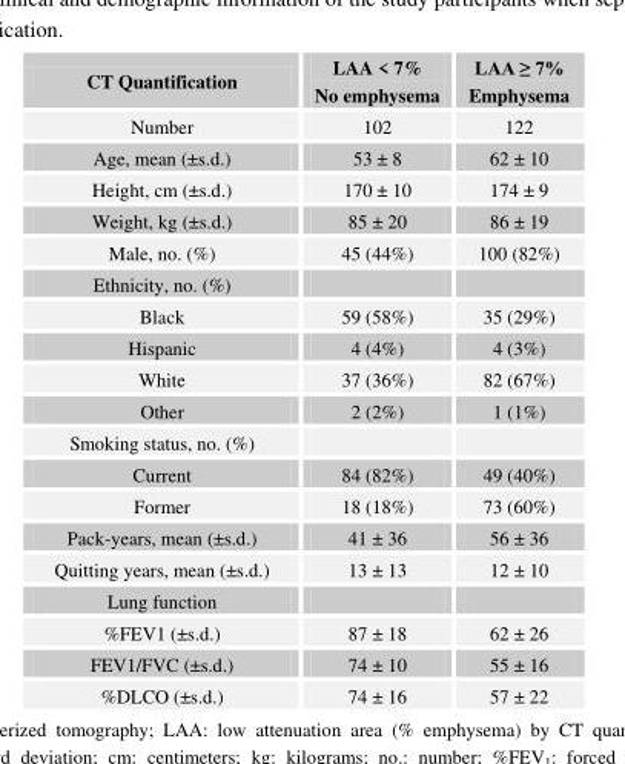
<table><thead><tr><td>CT Quantification</td><td>LAA &lt; 7% No emphysema</td><td>LAA ≥ 7% Emphysema</td></tr></thead><tbody><tr><td>Number</td><td>102</td><td>122</td></tr><tr><td>Age, mean (±s.d.)</td><td>53 ± 8</td><td>62 ± 10</td></tr><tr><td>Height, cm (±s.d.)</td><td>170 ± 10</td><td>174 ± 9</td></tr><tr><td>Weight, kg (±s.d.)</td><td>85 ± 20</td><td>86 ± 19</td></tr><tr><td>Male, no. (%)</td><td>45 (44%)</td><td>100 (82%)</td></tr><tr><td colspan="3">Ethnicity, no. (%)</td></tr><tr><td>Black</td><td>59 (58%)</td><td>35 (29%)</td></tr><tr><td>Hispanic</td><td>4 (4%)</td><td>4 (3%)</td></tr><tr><td>White</td><td>37 (36%)</td><td>82 (67%)</td></tr><tr><td>Other</td><td>2 (2%)</td><td>1 (1%)</td></tr><tr><td colspan="3">Smoking status, no. (%)</td></tr><tr><td>Current</td><td>84 (82%)</td><td>49 (40%)</td></tr><tr><td>Former</td><td>18 (18%)</td><td>73 (60%)</td></tr><tr><td>Pack-years, mean (±s.d.)</td><td>41 ± 36</td><td>56 ± 36</td></tr><tr><td>Quitting years, mean (±s.d.)</td><td>13 ± 13</td><td>12 ± 10</td></tr><tr><td colspan="3">Lung function</td></tr><tr><td>%FEV1 (±s.d.)</td><td>87 ± 18</td><td>62 ± 26</td></tr><tr><td>FEV1/FVC (±s.d.)</td><td>74 ± 10</td><td>55 ± 16</td></tr><tr><td>%DLCO (±s.d.)</td><td>74 ± 16</td><td>57 ± 22</td></tr></tbody></table>